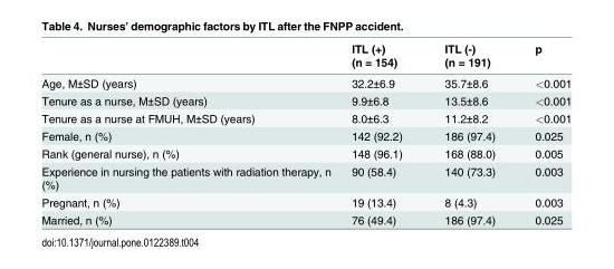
<table><thead><tr><td></td><td>ITL (+) (n = 154)</td><td>ITL (-) (n = 191)</td><td>p</td></tr></thead><tbody><tr><td>Age, M±SD (years)</td><td>32.2±6.9</td><td>35.7±8.6</td><td>&lt;0.001</td></tr><tr><td>Tenure as a nurse, M±SD (years)</td><td>9.9±6.8</td><td>13.5±8.6</td><td>&lt;0.001</td></tr><tr><td>Tenure as a nurse at FMUH, M±SD (years)</td><td>8.0±6.3</td><td>11.2±8.2</td><td>&lt;0.001</td></tr><tr><td>Female, n (%)</td><td>142 (92.2)</td><td>186 (97.4)</td><td>0.025</td></tr><tr><td>Rank (general nurse), n (%)</td><td>148 (96.1)</td><td>168 (88.0)</td><td>0.005</td></tr><tr><td>Experience in nursing the patients with radiation therapy, n (%)</td><td>90 (58.4)</td><td>140 (73.3)</td><td>0.003</td></tr><tr><td>Pregnant, n (%)</td><td>19 (13.4)</td><td>8 (4.3)</td><td>0.003</td></tr><tr><td>Married, n (%)</td><td>76 (49.4)</td><td>186 (97.4)</td><td>0.025</td></tr></tbody></table>